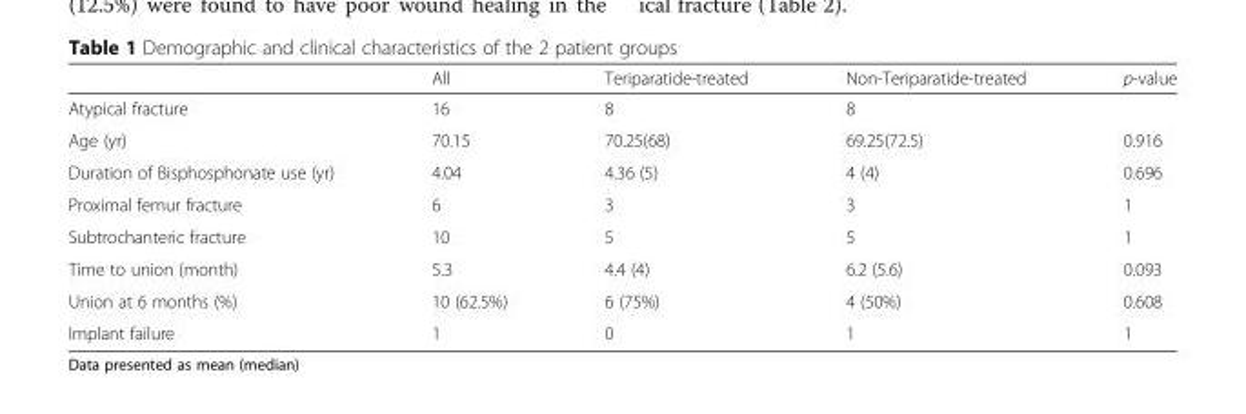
<table><thead><tr><td></td><td>All</td><td>Teriparatide-treated</td><td>Non-Teriparatide-treated</td><td>p-value</td></tr></thead><tbody><tr><td>Atypical fracture</td><td>16</td><td>8</td><td>8</td><td></td></tr><tr><td>Age (yr)</td><td>70.15</td><td>70.25(68)</td><td>69.25(72.5)</td><td>0.916</td></tr><tr><td>Duration of Bisphosphonate use (yr)</td><td>4.04</td><td>4.36 (5)</td><td>4 (4)</td><td>0.696</td></tr><tr><td>Proximal femur fracture</td><td>6</td><td>3</td><td>3</td><td>1</td></tr><tr><td>Subtrochanteric fracture</td><td>10</td><td>5</td><td>5</td><td>1</td></tr><tr><td>Time to union (month)</td><td>5.3</td><td>4.4 (4)</td><td>6.2 (5.6)</td><td>0.093</td></tr><tr><td>Union at 6 months (%)</td><td>10 (62.5%)</td><td>6 (75%)</td><td>4 (50%)</td><td>0.608</td></tr><tr><td>Implant failure</td><td>1</td><td>0</td><td>1</td><td>1</td></tr></tbody></table>